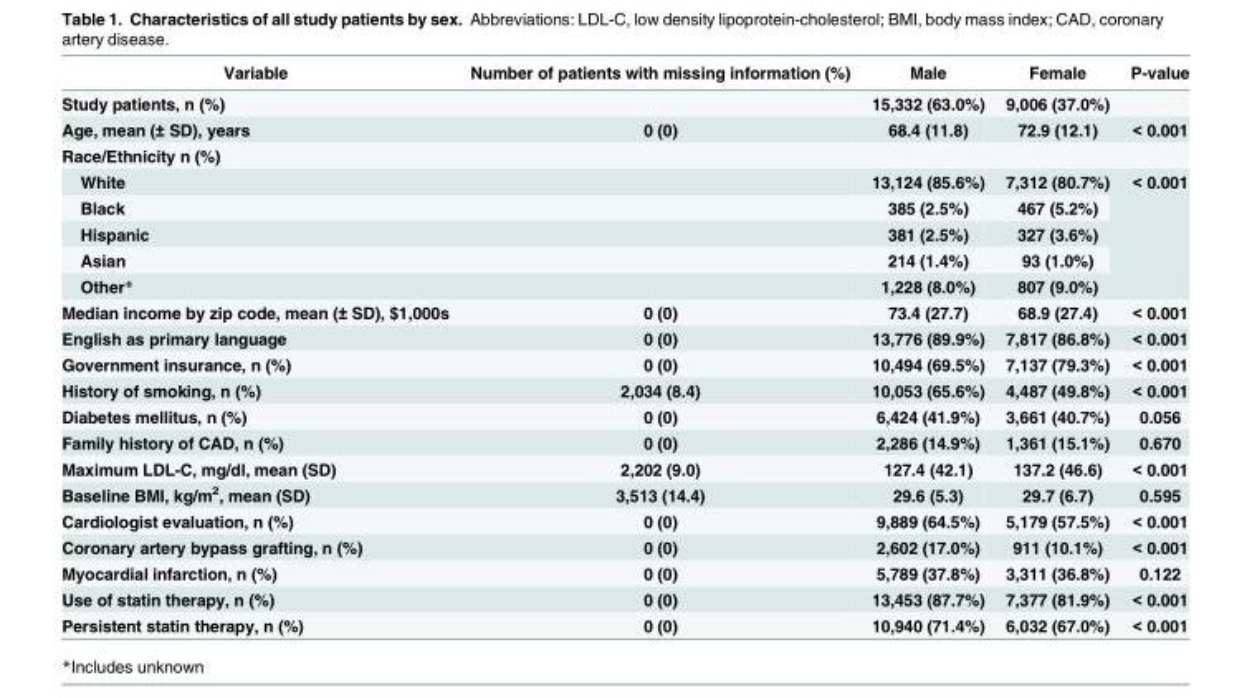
<table><thead><tr><td>Variable</td><td>Number of patients with missing information (%)</td><td>Male</td><td>Female</td><td>P-value</td></tr></thead><tbody><tr><td>Study patients, n (%)</td><td></td><td>15,332 (63.0%)</td><td>9,006 (37.0%)</td><td></td></tr><tr><td>Age, mean (± SD), years</td><td>0 (0)</td><td>68.4 (11.8)</td><td>72.9 (12.1)</td><td>&lt; 0.001</td></tr><tr><td colspan="5">Race/Ethnicity n (%)</td></tr><tr><td>White</td><td></td><td>13,124 (85.6%)</td><td>7,312 (80.7%)</td><td rowspan="5">&lt; 0.001</td></tr><tr><td>Black</td><td></td><td>385 (2.5%)</td><td>467 (5.2%)</td></tr><tr><td>Hispanic</td><td></td><td>381 (2.5%)</td><td>327 (3.6%)</td></tr><tr><td>Asian</td><td></td><td>214 (1.4%)</td><td>93 (1.0%)</td></tr><tr><td>Other*</td><td></td><td>1,228 (8.0%)</td><td>807 (9.0%)</td></tr><tr><td>Median income by zip code, mean (± SD), $1,000s</td><td>0 (0)</td><td>73.4 (27.7)</td><td>68.9 (27.4)</td><td>&lt; 0.001</td></tr><tr><td>English as primary language</td><td>0 (0)</td><td>13,776 (89.9%)</td><td>7,817 (86.8%)</td><td>&lt; 0.001</td></tr><tr><td>Government insurance, n (%)</td><td>0 (0)</td><td>10,494 (69.5%)</td><td>7,137 (79.3%)</td><td>&lt; 0.001</td></tr><tr><td>History of smoking, n (%)</td><td>2,034 (8.4)</td><td>10,053 (65.6%)</td><td>4,487 (49.8%)</td><td>&lt; 0.001</td></tr><tr><td>Diabetes mellitus, n (%)</td><td>0 (0)</td><td>6,424 (41.9%)</td><td>3,661 (40.7%)</td><td>0.056</td></tr><tr><td>Family history of CAD, n (%)</td><td>0 (0)</td><td>2,286 (14.9%)</td><td>1,361 (15.1%)</td><td>0.670</td></tr><tr><td>Maximum LDL-C, mg/dl, mean (SD)</td><td>2,202 (9.0)</td><td>127.4 (42.1)</td><td>137.2 (46.6)</td><td>&lt; 0.001</td></tr><tr><td>Baseline BMI, kg/m<sup>2</sup>, mean (SD)</td><td>3,513 (14.4)</td><td>29.6 (5.3)</td><td>29.7 (6.7)</td><td>0.595</td></tr><tr><td>Cardiologist evaluation, n (%)</td><td>0 (0)</td><td>9,889 (64.5%)</td><td>5,179 (57.5%)</td><td>&lt; 0.001</td></tr><tr><td>Coronary artery bypass grafting, n (%)</td><td>0 (0)</td><td>2,602 (17.0%)</td><td>911 (10.1%)</td><td>&lt; 0.001</td></tr><tr><td>Myocardial infarction, n (%)</td><td>0 (0)</td><td>5,789 (37.8%)</td><td>3,311 (36.8%)</td><td>0.122</td></tr><tr><td>Use of statin therapy, n (%)</td><td>0 (0)</td><td>13,453 (87.7%)</td><td>7,377 (81.9%)</td><td>&lt; 0.001</td></tr><tr><td>Persistent statin therapy, n (%)</td><td>0 (0)</td><td>10,940 (71.4%)</td><td>6,032 (67.0%)</td><td>&lt; 0.001</td></tr></tbody></table>